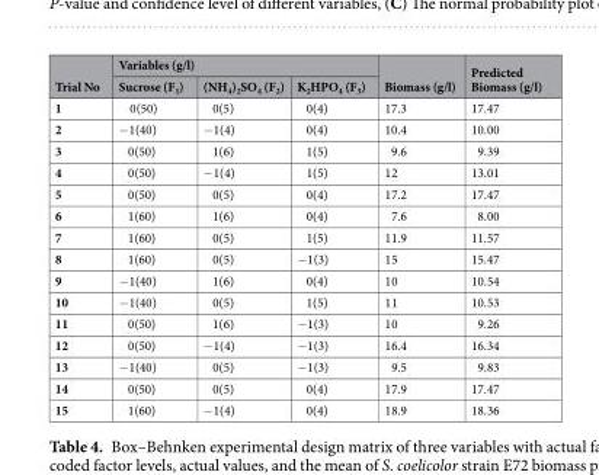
<table><thead><tr><td rowspan="2">Trial No</td><td colspan="3">Variables (g/l)</td><td rowspan="2">Biomass (g/l)</td><td rowspan="2">Predicted Biomass (g/l)</td></tr><tr><td>Sucrose (F<sub>1</sub>)</td><td>(NH<sub>4</sub>)<sub>2</sub>SO<sub>4</sub> (F<sub>2</sub>)</td><td>K<sub>2</sub>HPO<sub>4</sub> (F<sub>3</sub>)</td></tr></thead><tbody><tr><td>1</td><td>0(50)</td><td>0(5)</td><td>0(4)</td><td>17.3</td><td>17.47</td></tr><tr><td>2</td><td>−1(40)</td><td>−1(4)</td><td>0(4)</td><td>10.4</td><td>10.00</td></tr><tr><td>3</td><td>0(50)</td><td>1(6)</td><td>1(5)</td><td>9.6</td><td>9.39</td></tr><tr><td>4</td><td>0(50)</td><td>−1(4)</td><td>1(5)</td><td>12</td><td>13.01</td></tr><tr><td>5</td><td>0(50)</td><td>0(5)</td><td>0(4)</td><td>17.2</td><td>17.47</td></tr><tr><td>6</td><td>1(60)</td><td>1(6)</td><td>0(4)</td><td>7.6</td><td>8.00</td></tr><tr><td>7</td><td>1(60)</td><td>0(5)</td><td>1(5)</td><td>11.9</td><td>11.57</td></tr><tr><td>8</td><td>1(60)</td><td>0(5)</td><td>−1(3)</td><td>15</td><td>15.47</td></tr><tr><td>9</td><td>−1(40)</td><td>1(6)</td><td>0(4)</td><td>10</td><td>10.54</td></tr><tr><td>10</td><td>−1(40)</td><td>0(5)</td><td>1(5)</td><td>11</td><td>10.53</td></tr><tr><td>11</td><td>0(50)</td><td>1(6)</td><td>−1(3)</td><td>10</td><td>9.26</td></tr><tr><td>12</td><td>0(50)</td><td>−1(4)</td><td>−1(3)</td><td>16.4</td><td>16.34</td></tr><tr><td>13</td><td>−1(40)</td><td>0(5)</td><td>−1(3)</td><td>9.5</td><td>9.83</td></tr><tr><td>14</td><td>0(50)</td><td>0(5)</td><td>0(4)</td><td>17.9</td><td>17.47</td></tr><tr><td>15</td><td>1(60)</td><td>−1(4)</td><td>0(4)</td><td>18.9</td><td>18.36</td></tr></tbody></table>